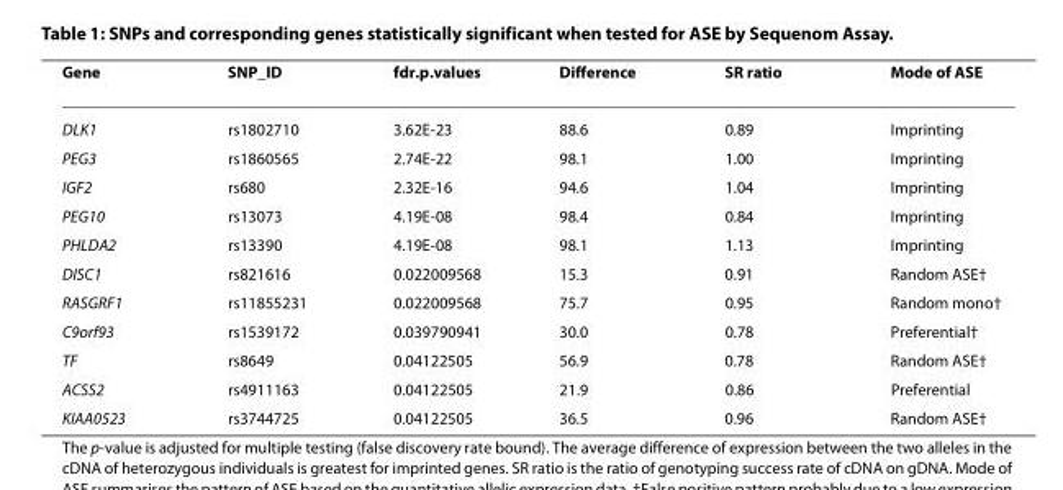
<table><thead><tr><td>Gene</td><td>SNP_ID</td><td>fdr.p.values</td><td>Difference</td><td>SR ratio</td><td>Mode of ASE</td></tr></thead><tbody><tr><td>DLK1</td><td>rs1802710</td><td>3.62E-23</td><td>88.6</td><td>0.89</td><td>Imprinting</td></tr><tr><td>PEG3</td><td>rs1860565</td><td>2.74E-22</td><td>98.1</td><td>1.00</td><td>Imprinting</td></tr><tr><td>IGF2</td><td>rs680</td><td>2.32E-16</td><td>94.6</td><td>1.04</td><td>Imprinting</td></tr><tr><td>PEG10</td><td>rs13073</td><td>4.19E-08</td><td>98.4</td><td>0.84</td><td>Imprinting</td></tr><tr><td>PHLDA2</td><td>rs13390</td><td>4.19E-08</td><td>98.1</td><td>1.13</td><td>Imprinting</td></tr><tr><td>DISC1</td><td>rs821616</td><td>0.022009568</td><td>15.3</td><td>0.91</td><td>Random ASE†</td></tr><tr><td>RASGRF1</td><td>rs11855231</td><td>0.022009568</td><td>75.7</td><td>0.95</td><td>Random mono†</td></tr><tr><td>C9orf93</td><td>rs1539172</td><td>0.039790941</td><td>30.0</td><td>0.78</td><td>Preferential†</td></tr><tr><td>TF</td><td>rs8649</td><td>0.04122505</td><td>56.9</td><td>0.78</td><td>Random ASE†</td></tr><tr><td>ACSS2</td><td>rs4911163</td><td>0.04122505</td><td>21.9</td><td>0.86</td><td>Preferential</td></tr><tr><td>KIAA0523</td><td>rs3744725</td><td>0.04122505</td><td>36.5</td><td>0.96</td><td>Random ASE†</td></tr></tbody></table>